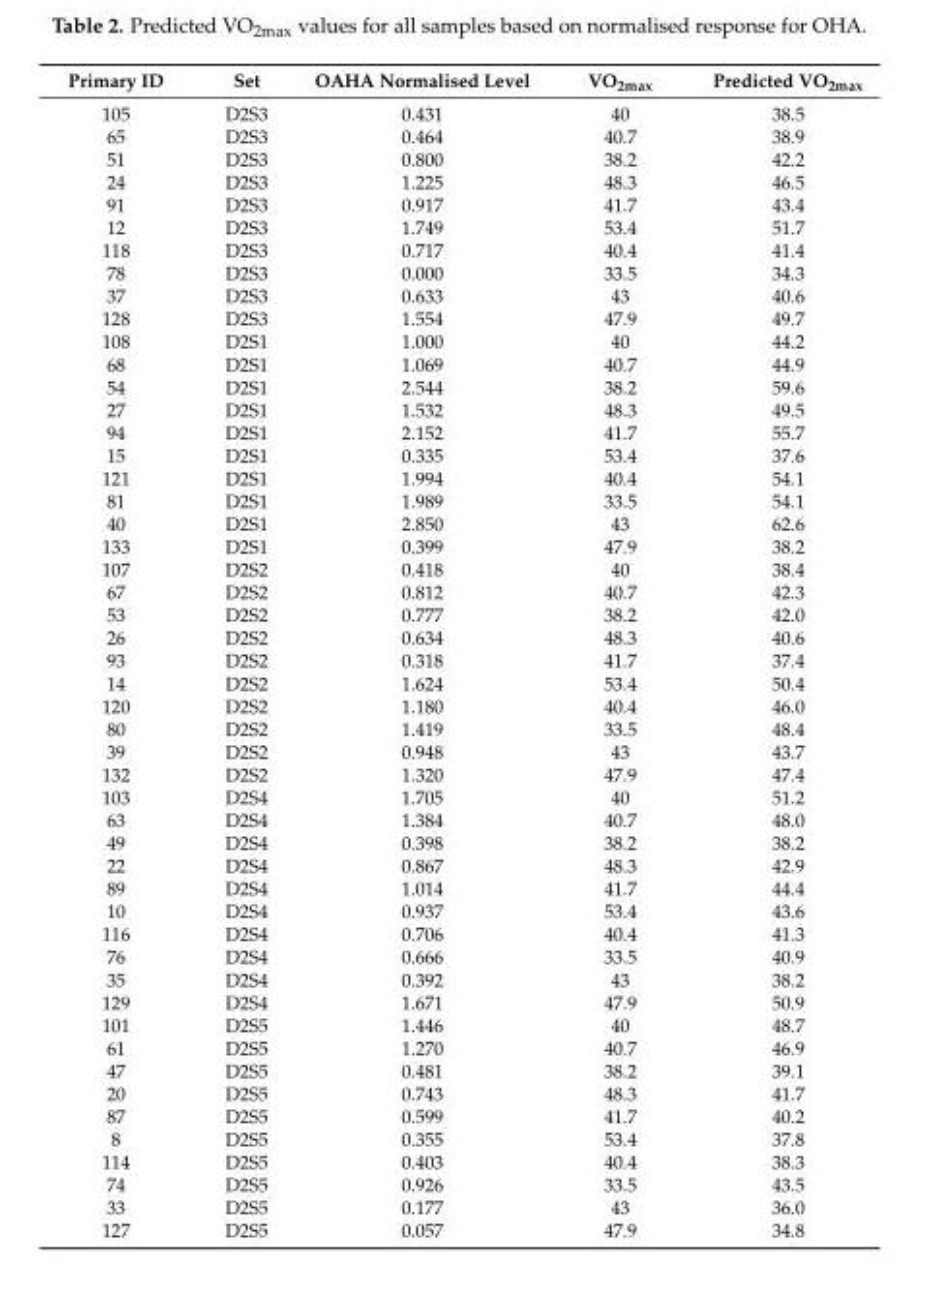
<table><thead><tr><td>Primary ID</td><td>Set</td><td>OAHA Normalised Level</td><td>VO<sub>2max</sub></td><td>Predicted VO<sub>2max</sub></td></tr></thead><tbody><tr><td>105</td><td>D2S3</td><td>0.431</td><td>40</td><td>38.5</td></tr><tr><td>65</td><td>D2S3</td><td>0.464</td><td>40.7</td><td>38.9</td></tr><tr><td>51</td><td>D2S3</td><td>0.800</td><td>38.2</td><td>42.2</td></tr><tr><td>24</td><td>D2S3</td><td>1.225</td><td>48.3</td><td>46.5</td></tr><tr><td>91</td><td>D2S3</td><td>0.917</td><td>41.7</td><td>43.4</td></tr><tr><td>12</td><td>D2S3</td><td>1.749</td><td>53.4</td><td>51.7</td></tr><tr><td>118</td><td>D2S3</td><td>0.717</td><td>40.4</td><td>41.4</td></tr><tr><td>78</td><td>D2S3</td><td>0.000</td><td>33.5</td><td>34.3</td></tr><tr><td>37</td><td>D2S3</td><td>0.633</td><td>43</td><td>40.6</td></tr><tr><td>128</td><td>D2S3</td><td>1.554</td><td>47.9</td><td>49.7</td></tr><tr><td>108</td><td>D2S1</td><td>1.000</td><td>40</td><td>44.2</td></tr><tr><td>68</td><td>D2S1</td><td>1.069</td><td>40.7</td><td>44.9</td></tr><tr><td>54</td><td>D2S1</td><td>2.544</td><td>38.2</td><td>59.6</td></tr><tr><td>27</td><td>D2S1</td><td>1.532</td><td>48.3</td><td>49.5</td></tr><tr><td>94</td><td>D2S1</td><td>2.152</td><td>41.7</td><td>55.7</td></tr><tr><td>15</td><td>D2S1</td><td>0.335</td><td>53.4</td><td>37.6</td></tr><tr><td>121</td><td>D2S1</td><td>1.994</td><td>40.4</td><td>54.1</td></tr><tr><td>81</td><td>D2S1</td><td>1.989</td><td>33.5</td><td>54.1</td></tr><tr><td>40</td><td>D2S1</td><td>2.850</td><td>43</td><td>62.6</td></tr><tr><td>133</td><td>D2S1</td><td>0.399</td><td>47.9</td><td>38.2</td></tr><tr><td>107</td><td>D2S2</td><td>0.418</td><td>40</td><td>38.4</td></tr><tr><td>67</td><td>D2S2</td><td>0.812</td><td>40.7</td><td>42.3</td></tr><tr><td>53</td><td>D2S2</td><td>0.777</td><td>38.2</td><td>42.0</td></tr><tr><td>26</td><td>D2S2</td><td>0.634</td><td>48.3</td><td>40.6</td></tr><tr><td>93</td><td>D2S2</td><td>0.318</td><td>41.7</td><td>37.4</td></tr><tr><td>14</td><td>D2S2</td><td>1.624</td><td>53.4</td><td>50.4</td></tr><tr><td>120</td><td>D2S2</td><td>1.180</td><td>40.4</td><td>46.0</td></tr><tr><td>80</td><td>D2S2</td><td>1.419</td><td>33.5</td><td>48.4</td></tr><tr><td>39</td><td>D2S2</td><td>0.948</td><td>43</td><td>43.7</td></tr><tr><td>132</td><td>D2S2</td><td>1.320</td><td>47.9</td><td>47.4</td></tr><tr><td>103</td><td>D2S4</td><td>1.705</td><td>40</td><td>51.2</td></tr><tr><td>63</td><td>D2S4</td><td>1.384</td><td>40.7</td><td>48.0</td></tr><tr><td>49</td><td>D2S4</td><td>0.398</td><td>38.2</td><td>38.2</td></tr><tr><td>22</td><td>D2S4</td><td>0.867</td><td>48.3</td><td>42.9</td></tr><tr><td>89</td><td>D2S4</td><td>1.014</td><td>41.7</td><td>44.4</td></tr><tr><td>10</td><td>D2S4</td><td>0.937</td><td>53.4</td><td>43.6</td></tr><tr><td>116</td><td>D2S4</td><td>0.706</td><td>40.4</td><td>41.3</td></tr><tr><td>76</td><td>D2S4</td><td>0.666</td><td>33.5</td><td>40.9</td></tr><tr><td>35</td><td>D2S4</td><td>0.392</td><td>43</td><td>38.2</td></tr><tr><td>129</td><td>D2S4</td><td>1.671</td><td>47.9</td><td>50.9</td></tr><tr><td>101</td><td>D2S5</td><td>1.446</td><td>40</td><td>48.7</td></tr><tr><td>61</td><td>D2S5</td><td>1.270</td><td>40.7</td><td>46.9</td></tr><tr><td>47</td><td>D2S5</td><td>0.481</td><td>38.2</td><td>39.1</td></tr><tr><td>20</td><td>D2S5</td><td>0.743</td><td>48.3</td><td>41.7</td></tr><tr><td>87</td><td>D2S5</td><td>0.599</td><td>41.7</td><td>40.2</td></tr><tr><td>8</td><td>D2S5</td><td>0.355</td><td>53.4</td><td>37.8</td></tr><tr><td>114</td><td>D2S5</td><td>0.403</td><td>40.4</td><td>38.3</td></tr><tr><td>74</td><td>D2S5</td><td>0.926</td><td>33.5</td><td>43.5</td></tr><tr><td>33</td><td>D2S5</td><td>0.177</td><td>43</td><td>36.0</td></tr><tr><td>127</td><td>D2S5</td><td>0.057</td><td>47.9</td><td>34.8</td></tr></tbody></table>